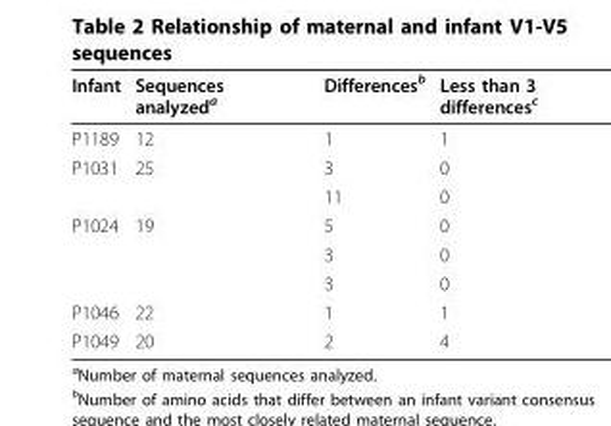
<table><thead><tr><td>Infant</td><td>Sequences analyzed<sup>a</sup></td><td>Differences<sup>b</sup></td><td>Less than 3 differences<sup>c</sup></td></tr></thead><tbody><tr><td>P1189</td><td>12</td><td>1</td><td>1</td></tr><tr><td rowspan="2">P1031</td><td>25</td><td>3</td><td>0</td></tr><tr><td></td><td>11</td><td>0</td></tr><tr><td rowspan="3">P1024</td><td>19</td><td>5</td><td>0</td></tr><tr><td></td><td>3</td><td>0</td></tr><tr><td></td><td>3</td><td>0</td></tr><tr><td>P1046</td><td>22</td><td>1</td><td>1</td></tr><tr><td>P1049</td><td>20</td><td>2</td><td>4</td></tr></tbody></table>